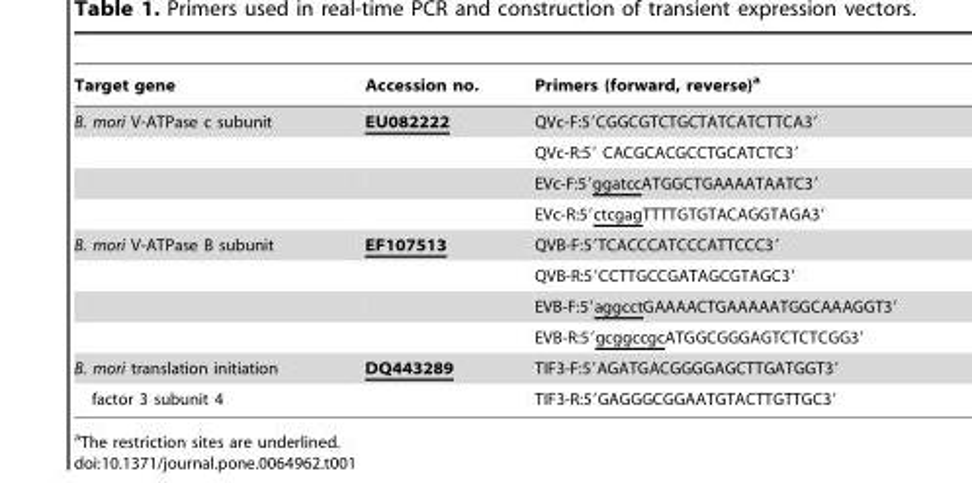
<table><thead><tr><td>Target gene</td><td>Accession no.</td><td>Primers (forward, reverse)<sup>a</sup></td></tr></thead><tbody><tr><td rowspan="4">B. mori V-ATPase c subunit</td><td>EU082222</td><td>QVc-F:5′CGGCGTCTGCTATCATCTTCA3′</td></tr><tr><td></td><td>QVc-R:5′ CACGCACGCCTGCATCTC3′</td></tr><tr><td></td><td>EVc-F:5′ggatccATGGCTGAAAATAATC3′</td></tr><tr><td></td><td>EVc-R:5′ctcgagTTTTGTGTACAGGTAGA3′</td></tr><tr><td rowspan="4">B. mori V-ATPase B subunit</td><td>EF107513</td><td>QVB-F:5′TCACCCATCCCATTCCC3′</td></tr><tr><td></td><td>QVB-R:5′CCTTGCCGATAGCGTAGC3′</td></tr><tr><td></td><td>EVB-F:5′aggcctGAAAACTGAAAAATGGCAAAGGT3′</td></tr><tr><td></td><td>EVB-R:5′gcggccgcATGGCGGGAGTCTCTCGG3′</td></tr><tr><td>B. mori translation initiation</td><td>DQ443289</td><td>TIF3-F:5′AGATGACGGGGAGCTTGATGGT3′</td></tr><tr><td>factor 3 subunit 4</td><td></td><td>TIF3-R:5′GAGGGCGGAATGTACTTGTTGC3′</td></tr></tbody></table>